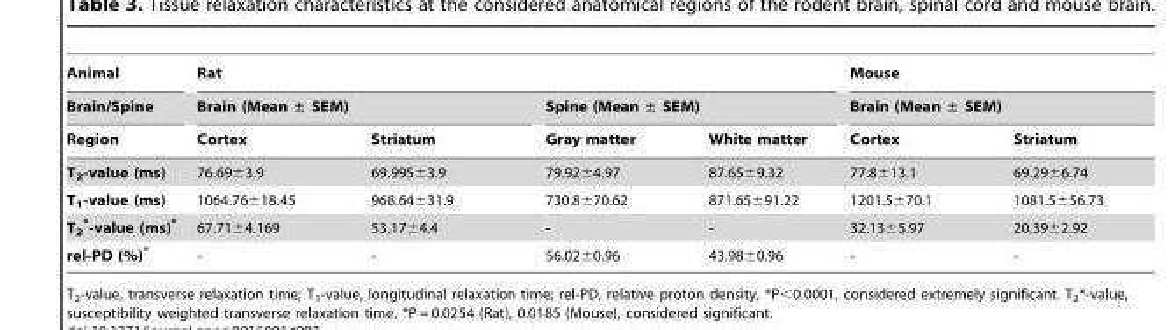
<table><thead><tr><td rowspan="3">Animal Brain/Spine Region</td><td colspan="4">Rat</td><td rowspan="2" colspan="2">Mouse Brain (Mean ± SEM)</td></tr><tr><td colspan="2">Brain (Mean ± SEM)</td><td colspan="2">Spine (Mean ± SEM)</td></tr><tr><td>Cortex</td><td>Striatum</td><td>Gray matter</td><td>White matter</td><td>Cortex</td><td>Striatum</td></tr></thead><tbody><tr><td>T<sub>2</sub>-value (ms)</td><td>76.69±3.9</td><td>69.995±3.9</td><td>79.92±4.97</td><td>87.65±9.32</td><td>77.8±13.1</td><td>69.29±6.74</td></tr><tr><td>T<sub>1</sub>-value (ms)</td><td>1064.76±18.45</td><td>968.64±31.9</td><td>730.8±70.62</td><td>871.65±91.22</td><td>1201.5±70.1</td><td>1081.5±56.73</td></tr><tr><td>T<sub>2</sub> *-value (ms)*</td><td>67.71±4.169</td><td>53.17±4.4</td><td>-</td><td>-</td><td>32.13±5.97</td><td>20.39±2.92</td></tr><tr><td>rel-PD (%)*</td><td>-</td><td>-</td><td>56.02±0.96</td><td>43.98±0.96</td><td>-</td><td>-</td></tr></tbody></table>